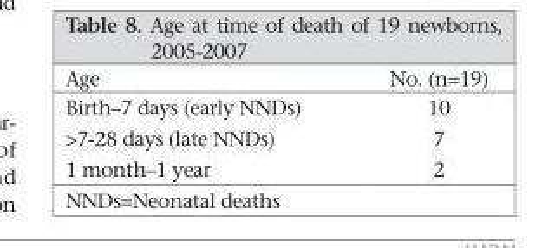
<table><thead><tr><td>Age</td><td>No. (n=19)</td></tr></thead><tbody><tr><td>Birth–7 days (early NNDs)</td><td>10</td></tr><tr><td>&gt;7-28 days (late NNDs)</td><td>7</td></tr><tr><td>1 month–1 year</td><td>2</td></tr></tbody></table>